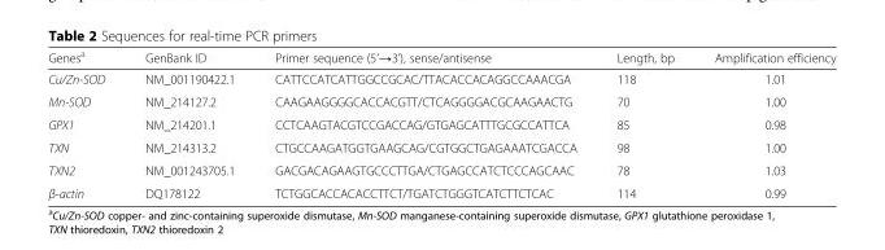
<table><thead><tr><td>Genes<sup>a</sup></td><td>GenBank ID</td><td>Primer sequence (5’→3’), sense/antisense</td><td>Length, bp</td><td>Amplification efficiency</td></tr></thead><tbody><tr><td>Cu/Zn-SOD</td><td>NM_001190422.1</td><td>CATTCCATCATTGGCCGCAC/TTACACCACAGGCCAAACGA</td><td>118</td><td>1.01</td></tr><tr><td>Mn-SOD</td><td>NM_214127.2</td><td>CAAGAAGGGGCACCACGTT/CTCAGGGGACGCAAGAACTG</td><td>70</td><td>1.00</td></tr><tr><td>GPX1</td><td>NM_214201.1</td><td>CCTCAAGTACGTCCGACCAG/GTGAGCATTTGCGCCATTCA</td><td>85</td><td>0.98</td></tr><tr><td>TXN</td><td>NM_214313.2</td><td>CTGCCAAGATGGTGAAGCAG/CGTGGCTGAGAAATCGACCA</td><td>98</td><td>1.00</td></tr><tr><td>TXN2</td><td>NM_001243705.1</td><td>GACGACAGAAGTGCCCTTGA/CTGAGCCATCTCCCAGCAAC</td><td>78</td><td>1.03</td></tr><tr><td>β-actin</td><td>DQ178122</td><td>TCTGGCACCACACCTTCT/TGATCTGGGTCATCTTCTCAC</td><td>114</td><td>0.99</td></tr></tbody></table>